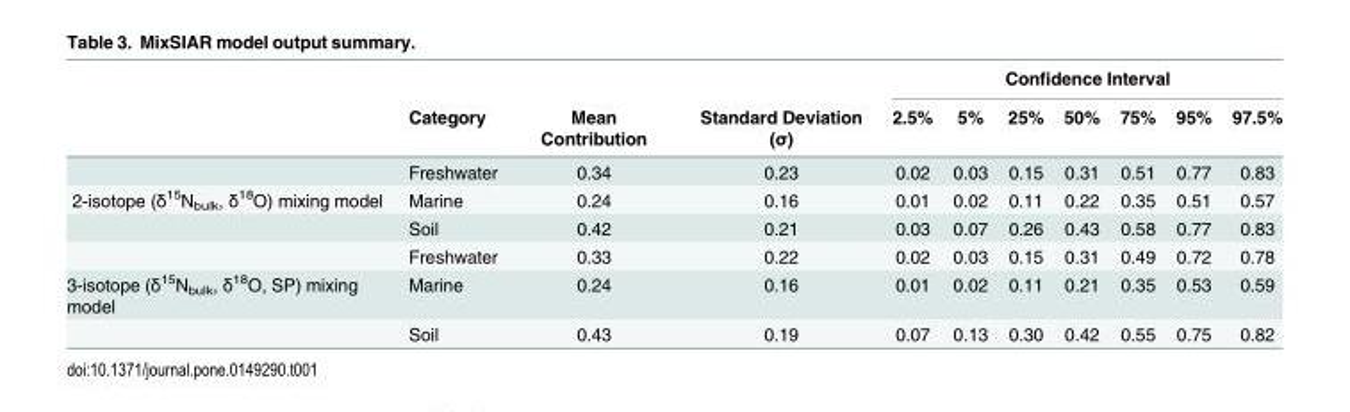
<table><thead><tr><td rowspan="2"></td><td rowspan="2">Category</td><td rowspan="2">Mean Contribution</td><td rowspan="2">Standard Deviation (σ)</td><td colspan="7">Confidence Interval</td></tr><tr><td>2.5%</td><td>5%</td><td>25%</td><td>50%</td><td>75%</td><td>95%</td><td>97.5%</td></tr></thead><tbody><tr><td></td><td>Freshwater</td><td>0.34</td><td>0.23</td><td>0.02</td><td>0.03</td><td>0.15</td><td>0.31</td><td>0.51</td><td>0.77</td><td>0.83</td></tr><tr><td rowspan="3">2-isotope (δ<sup>15</sup>N<sub>bulk</sub>, δ<sup>18</sup>O) mixing model</td><td>Marine</td><td>0.24</td><td>0.16</td><td>0.01</td><td>0.02</td><td>0.11</td><td>0.22</td><td>0.35</td><td>0.51</td><td>0.57</td></tr><tr><td>Soil</td><td>0.42</td><td>0.21</td><td>0.03</td><td>0.07</td><td>0.26</td><td>0.43</td><td>0.58</td><td>0.77</td><td>0.83</td></tr><tr><td>Freshwater</td><td>0.33</td><td>0.22</td><td>0.02</td><td>0.03</td><td>0.15</td><td>0.31</td><td>0.49</td><td>0.72</td><td>0.78</td></tr><tr><td rowspan="2">3-isotope (δ<sup>15</sup>N<sub>bulk</sub>, δ<sup>18</sup>O, SP) mixing model</td><td>Marine</td><td>0.24</td><td>0.16</td><td>0.01</td><td>0.02</td><td>0.11</td><td>0.21</td><td>0.35</td><td>0.53</td><td>0.59</td></tr><tr><td>Soil</td><td>0.43</td><td>0.19</td><td>0.07</td><td>0.13</td><td>0.30</td><td>0.42</td><td>0.55</td><td>0.75</td><td>0.82</td></tr></tbody></table>